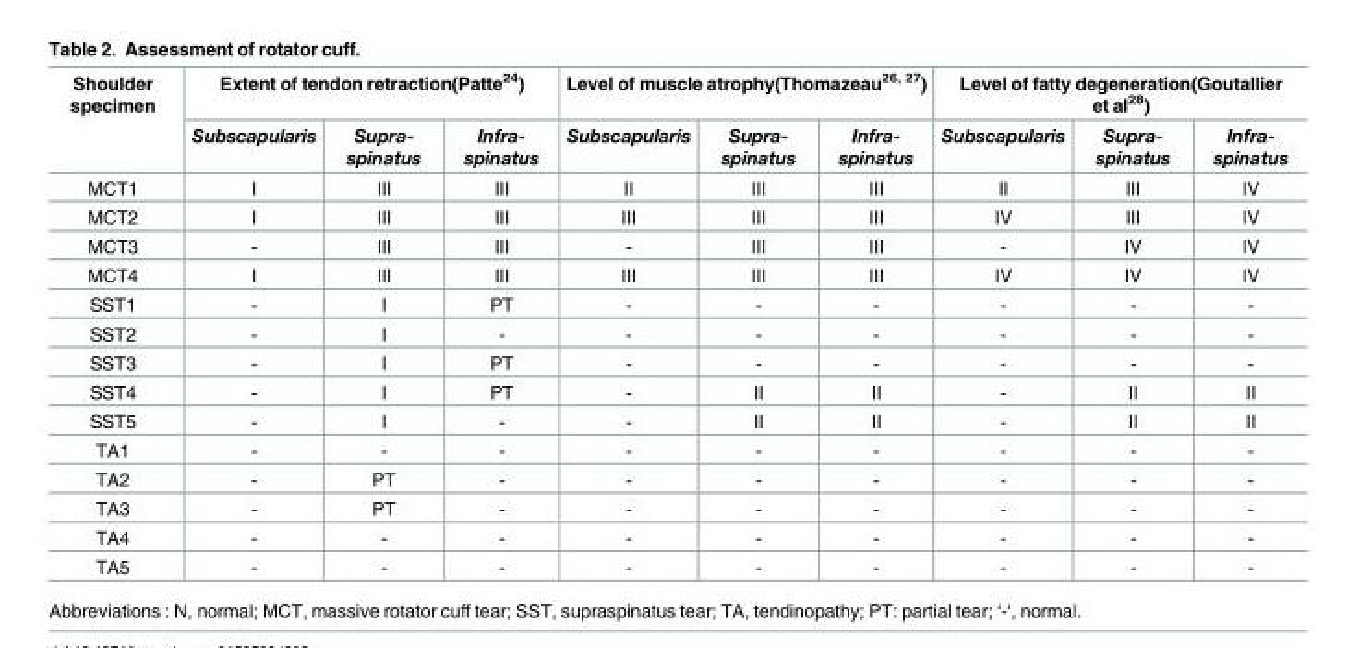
<table><thead><tr><td rowspan="2">Shoulder specimen</td><td colspan="3">Extent of tendon retraction(Patte<sup>24</sup>)</td><td colspan="3">Level of muscle atrophy(Thomazeau<sup>26, 27</sup>)</td><td colspan="3">Level of fatty degeneration(Goutallier et al<sup>28</sup>)</td></tr><tr><td>Subscapularis</td><td>Supra- spinatus</td><td>Infra- spinatus</td><td>Subscapularis</td><td>Supra- spinatus</td><td>Infra- spinatus</td><td>Subscapularis</td><td>Supra- spinatus</td><td>Infra- spinatus</td></tr></thead><tbody><tr><td>MCT1</td><td>I</td><td>III</td><td>III</td><td>II</td><td>III</td><td>III</td><td>II</td><td>III</td><td>IV</td></tr><tr><td>MCT2</td><td>I</td><td>III</td><td>III</td><td>III</td><td>III</td><td>III</td><td>IV</td><td>III</td><td>IV</td></tr><tr><td>MCT3</td><td>-</td><td>III</td><td>III</td><td>-</td><td>III</td><td>III</td><td>-</td><td>IV</td><td>IV</td></tr><tr><td>MCT4</td><td>I</td><td>III</td><td>III</td><td>III</td><td>III</td><td>III</td><td>IV</td><td>IV</td><td>IV</td></tr><tr><td>SST1</td><td>-</td><td>I</td><td>PT</td><td>-</td><td>-</td><td>-</td><td>-</td><td>-</td><td>-</td></tr><tr><td>SST2</td><td>-</td><td>I</td><td>-</td><td>-</td><td>-</td><td>-</td><td>-</td><td>-</td><td>-</td></tr><tr><td>SST3</td><td>-</td><td>I</td><td>PT</td><td>-</td><td>-</td><td>-</td><td>-</td><td>-</td><td>-</td></tr><tr><td>SST4</td><td>-</td><td>I</td><td>PT</td><td>-</td><td>II</td><td>II</td><td>-</td><td>II</td><td>II</td></tr><tr><td>SST5</td><td>-</td><td>I</td><td>-</td><td>-</td><td>II</td><td>II</td><td>-</td><td>II</td><td>II</td></tr><tr><td>TA1</td><td>-</td><td>-</td><td>-</td><td>-</td><td>-</td><td>-</td><td>-</td><td>-</td><td>-</td></tr><tr><td>TA2</td><td>-</td><td>PT</td><td>-</td><td>-</td><td>-</td><td>-</td><td>-</td><td>-</td><td>-</td></tr><tr><td>TA3</td><td>-</td><td>PT</td><td>-</td><td>-</td><td>-</td><td>-</td><td>-</td><td>-</td><td>-</td></tr><tr><td>TA4</td><td>-</td><td>-</td><td>-</td><td>-</td><td>-</td><td>-</td><td>-</td><td>-</td><td>-</td></tr><tr><td>TA5</td><td>-</td><td>-</td><td>-</td><td>-</td><td>-</td><td>-</td><td>-</td><td>-</td><td>-</td></tr></tbody></table>